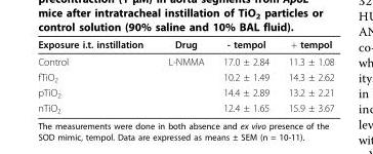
<table><thead><tr><td>Exposure i.t. instillation</td><td>Drug</td><td>- tempol</td><td>+ tempol</td></tr></thead><tbody><tr><td>Control</td><td>L-NMMA</td><td>17.0 ± 2.84</td><td>11.3 ± 1.08</td></tr><tr><td>fTiO<sub>2</sub></td><td></td><td>10.2 ± 1.49</td><td>14.3 ± 2.62</td></tr><tr><td>pTiO<sub>2</sub></td><td></td><td>14.4 ± 2.89</td><td>13.2 ± 2.21</td></tr><tr><td>nTiO<sub>2</sub></td><td></td><td>12.4 ± 1.65</td><td>15.9 ± 3.67</td></tr></tbody></table>